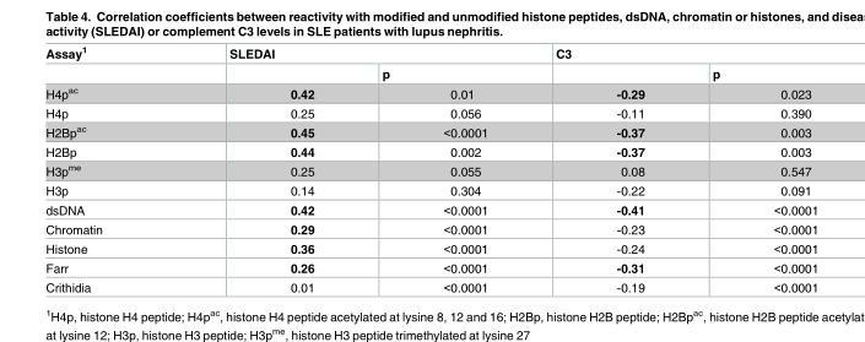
<table><thead><tr><td rowspan="2">Assay<sup>1</sup></td><td colspan="2">SLEDAI</td><td colspan="2">C3</td></tr><tr><td></td><td>p</td><td></td><td>p</td></tr></thead><tbody><tr><td>H4p<sup>ac</sup></td><td>0.42</td><td>0.01</td><td>-0.29</td><td>0.023</td></tr><tr><td>H4p</td><td>0.25</td><td>0.056</td><td>-0.11</td><td>0.390</td></tr><tr><td>H2Bp<sup>ac</sup></td><td>0.45</td><td>&lt;0.0001</td><td>-0.37</td><td>0.003</td></tr><tr><td>H2Bp</td><td>0.44</td><td>0.002</td><td>-0.37</td><td>0.003</td></tr><tr><td>H3p<sup>me</sup></td><td>0.25</td><td>0.055</td><td>0.08</td><td>0.547</td></tr><tr><td>H3p</td><td>0.14</td><td>0.304</td><td>-0.22</td><td>0.091</td></tr><tr><td>dsDNA</td><td>0.42</td><td>&lt;0.0001</td><td>-0.41</td><td>&lt;0.0001</td></tr><tr><td>Chromatin</td><td>0.29</td><td>&lt;0.0001</td><td>-0.23</td><td>&lt;0.0001</td></tr><tr><td>Histone</td><td>0.36</td><td>&lt;0.0001</td><td>-0.24</td><td>&lt;0.0001</td></tr><tr><td>Farr</td><td>0.26</td><td>&lt;0.0001</td><td>-0.31</td><td>&lt;0.0001</td></tr><tr><td>Crithidia</td><td>0.01</td><td>&lt;0.0001</td><td>-0.19</td><td>&lt;0.0001</td></tr></tbody></table>